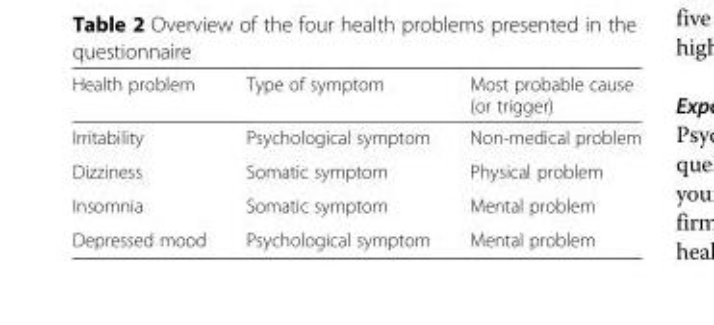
<table><thead><tr><td>Health problem</td><td>Type of symptom</td><td>Most probable cause (or trigger)</td></tr></thead><tbody><tr><td>Irritability</td><td>Psychological symptom</td><td>Non-medical problem</td></tr><tr><td>Dizziness</td><td>Somatic symptom</td><td>Physical problem</td></tr><tr><td>Insomnia</td><td>Somatic symptom</td><td>Mental problem</td></tr><tr><td>Depressed mood</td><td>Psychological symptom</td><td>Mental problem</td></tr></tbody></table>